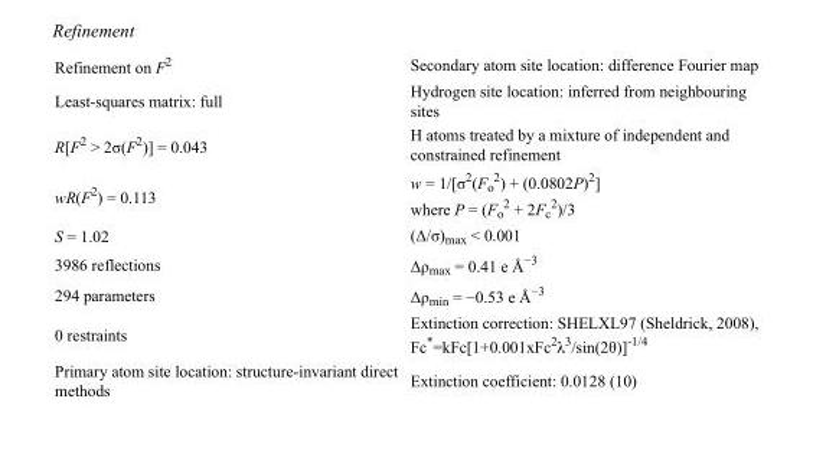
<table><tbody><tr><td>Refinement on F<sup>2</sup></td><td>Secondary atom site location: difference Fourier map</td></tr><tr><td>Least-squares matrix: full</td><td>Hydrogen site location: inferred from neighbouring sites</td></tr><tr><td>R[F<sup>2</sup> &gt; 2σ(F<sup>2</sup>)] = 0.043</td><td>H atoms treated by a mixture of independent and constrained refinement</td></tr><tr><td>wR(F<sup>2</sup>) = 0.113</td><td>w = 1/[σ<sup>2</sup>(F<sub>o</sub> <sup>2</sup>) + (0.0802P)<sup>2</sup>] where P = (F<sub>o</sub> <sup>2</sup> + 2F<sub>c</sub> <sup>2</sup>)/3</td></tr><tr><td>S = 1.02</td><td>(Δ/σ)<sub>max</sub> &lt; 0.001</td></tr><tr><td>3986 reflections</td><td>Δρ<sub>max</sub> = 0.41 e Å<sup>−3</sup></td></tr><tr><td>294 parameters</td><td>Δρ<sub>min</sub> = −0.53 e Å<sup>−3</sup></td></tr><tr><td>0 restraints</td><td>Extinction correction: SHELXL97 (Sheldrick, 2008), Fc*=kFc[1+0.001xFc<sup>2</sup>λ<sup>3</sup>/sin(2θ)]<sup>-1/4</sup></td></tr><tr><td>Primary atom site location: structure-invariant direct methods</td><td>Extinction coefficient: 0.0128 (10)</td></tr></tbody></table>